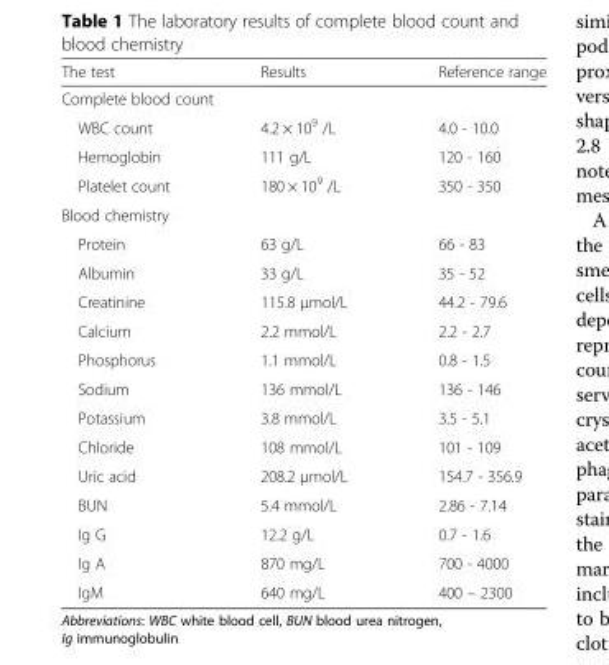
<table><thead><tr><td>The test</td><td>Results</td><td>Reference range</td></tr></thead><tbody><tr><td colspan="3">Complete blood count</td></tr><tr><td>WBC count</td><td>4.2 × 10<sup>9</sup> /L</td><td>4.0 - 10.0</td></tr><tr><td>Hemoglobin</td><td>111 g/L</td><td>120 - 160</td></tr><tr><td>Platelet count</td><td>180 × 10<sup>9</sup> /L</td><td>350 - 350</td></tr><tr><td colspan="3">Blood chemistry</td></tr><tr><td>Protein</td><td>63 g/L</td><td>66 - 83</td></tr><tr><td>Albumin</td><td>33 g/L</td><td>35 - 52</td></tr><tr><td>Creatinine</td><td>115.8 μmol/L</td><td>44.2 - 79.6</td></tr><tr><td>Calcium</td><td>2.2 mmol/L</td><td>2.2 - 2.7</td></tr><tr><td>Phosphorus</td><td>1.1 mmol/L</td><td>0.8 - 1.5</td></tr><tr><td>Sodium</td><td>136 mmol/L</td><td>136 - 146</td></tr><tr><td>Potassium</td><td>3.8 mmol/L</td><td>3.5 - 5.1</td></tr><tr><td>Chloride</td><td>108 mmol/L</td><td>101 - 109</td></tr><tr><td>Uric acid</td><td>208.2 μmol/L</td><td>154.7 - 356.9</td></tr><tr><td>BUN</td><td>5.4 mmol/L</td><td>2.86 - 7.14</td></tr><tr><td>Ig G</td><td>12.2 g/L</td><td>0.7 - 1.6</td></tr><tr><td>Ig A</td><td>870 mg/L</td><td>700 - 4000</td></tr><tr><td>IgM</td><td>640 mg/L</td><td>400 – 2300</td></tr></tbody></table>